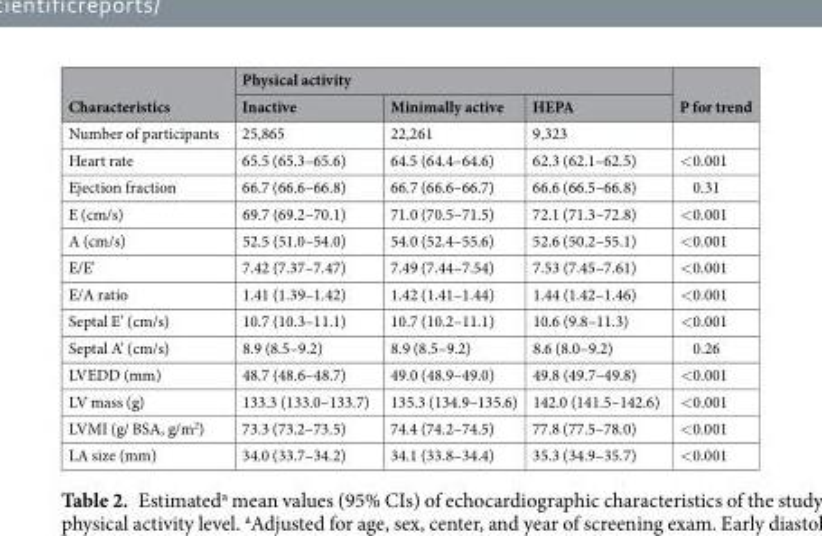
<table><thead><tr><td rowspan="2">Characteristics</td><td colspan="3">Physical activity</td><td rowspan="2">P for trend</td></tr><tr><td>Inactive</td><td>Minimally active</td><td>HEPA</td></tr></thead><tbody><tr><td>Number of participants</td><td>25,865</td><td>22,261</td><td>9,323</td><td></td></tr><tr><td>Heart rate</td><td>65.5 (65.3–65.6)</td><td>64.5 (64.4–64.6)</td><td>62.3 (62.1–62.5)</td><td>&lt;0.001</td></tr><tr><td>Ejection fraction</td><td>66.7 (66.6–66.8)</td><td>66.7 (66.6–66.7)</td><td>66.6 (66.5–66.8)</td><td>0.31</td></tr><tr><td>E (cm/s)</td><td>69.7 (69.2–70.1)</td><td>71.0 (70.5–71.5)</td><td>72.1 (71.3–72.8)</td><td>&lt;0.001</td></tr><tr><td>A (cm/s)</td><td>52.5 (51.0–54.0)</td><td>54.0 (52.4–55.6)</td><td>52.6 (50.2–55.1)</td><td>&lt;0.001</td></tr><tr><td>E/E&#x27;</td><td>7.42 (7.37–7.47)</td><td>7.49 (7.44–7.54)</td><td>7.53 (7.45–7.61)</td><td>&lt;0.001</td></tr><tr><td>E/A ratio</td><td>1.41 (1.39–1.42)</td><td>1.42 (1.41–1.44)</td><td>1.44 (1.42–1.46)</td><td>&lt;0.001</td></tr><tr><td>Septal E’ (cm/s)</td><td>10.7 (10.3–11.1)</td><td>10.7 (10.2–11.1)</td><td>10.6 (9.8–11.3)</td><td>&lt;0.001</td></tr><tr><td>Septal A’ (cm/s)</td><td>8.9 (8.5–9.2)</td><td>8.9 (8.5–9.2)</td><td>8.6 (8.0–9.2)</td><td>0.26</td></tr><tr><td>LVEDD (mm)</td><td>48.7 (48.6–48.7)</td><td>49.0 (48.9–49.0)</td><td>49.8 (49.7–49.8)</td><td>&lt;0.001</td></tr><tr><td>LV mass (g)</td><td>133.3 (133.0–133.7)</td><td>135.3 (134.9–135.6)</td><td>142.0 (141.5–142.6)</td><td>&lt;0.001</td></tr><tr><td>LVMI (g/ BSA, g/m<sup>2</sup>)</td><td>73.3 (73.2–73.5)</td><td>74.4 (74.2–74.5)</td><td>77.8 (77.5–78.0)</td><td>&lt;0.001</td></tr><tr><td>LA size (mm)</td><td>34.0 (33.7–34.2)</td><td>34.1 (33.8–34.4)</td><td>35.3 (34.9–35.7)</td><td>&lt;0.001</td></tr></tbody></table>